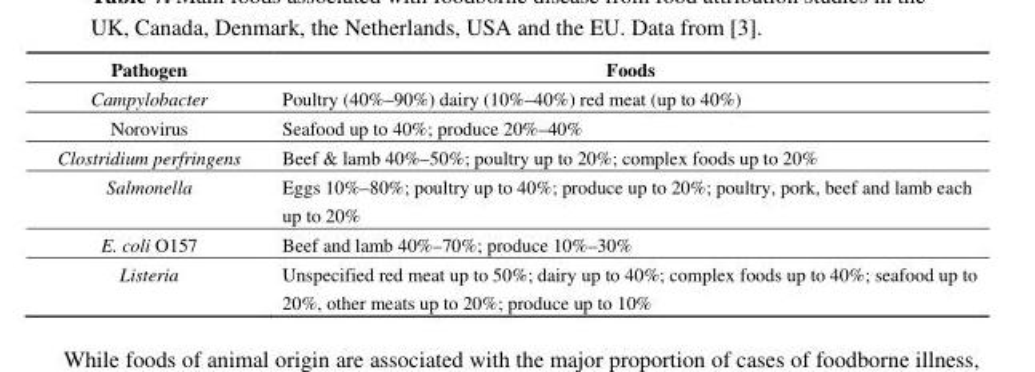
<table><thead><tr><td>Pathogen</td><td>Foods</td></tr></thead><tbody><tr><td>Campylobacter</td><td>Poultry (40%–90%) dairy (10%–40%) red meat (up to 40%)</td></tr><tr><td>Norovirus</td><td>Seafood up to 40%; produce 20%–40%</td></tr><tr><td>Clostridium perfringens</td><td>Beef &amp; lamb 40%–50%; poultry up to 20%; complex foods up to 20%</td></tr><tr><td>Salmonella</td><td>Eggs 10%–80%; poultry up to 40%; produce up to 20%; poultry, pork, beef and lamb each up to 20%</td></tr><tr><td>E. coli O157</td><td>Beef and lamb 40%–70%; produce 10%–30%</td></tr><tr><td>Listeria</td><td>Unspecified red meat up to 50%; dairy up to 40%; complex foods up to 40%; seafood up to 20%, other meats up to 20%; produce up to 10%</td></tr></tbody></table>